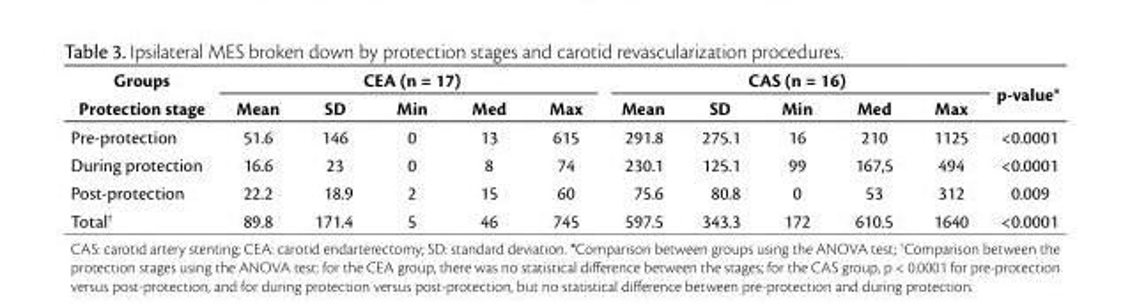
<table><thead><tr><td rowspan="2">Groups Protection stage</td><td colspan="5">CEA (n = 17)</td><td colspan="5">CAS (n = 16)</td><td rowspan="2">p-value*</td></tr><tr><td>Mean</td><td>SD</td><td>Min</td><td>Med</td><td>Max</td><td>Mean</td><td>SD</td><td>Min</td><td>Med</td><td>Max</td></tr></thead><tbody><tr><td>Pre-protection</td><td>51.6</td><td>146</td><td>0</td><td>13</td><td>615</td><td>291.8</td><td>275.1</td><td>16</td><td>210</td><td>1125</td><td>&lt;0.0001</td></tr><tr><td>During protection</td><td>16.6</td><td>23</td><td>0</td><td>8</td><td>74</td><td>230.1</td><td>125.1</td><td>99</td><td>167,5</td><td>494</td><td>&lt;0.0001</td></tr><tr><td>Post-protection</td><td>22.2</td><td>18.9</td><td>2</td><td>15</td><td>60</td><td>75.6</td><td>80.8</td><td>0</td><td>53</td><td>312</td><td>0.009</td></tr><tr><td>Total†</td><td>89.8</td><td>171.4</td><td>5</td><td>46</td><td>745</td><td>597.5</td><td>343.3</td><td>172</td><td>610.5</td><td>1640</td><td>&lt;0.0001</td></tr></tbody></table>